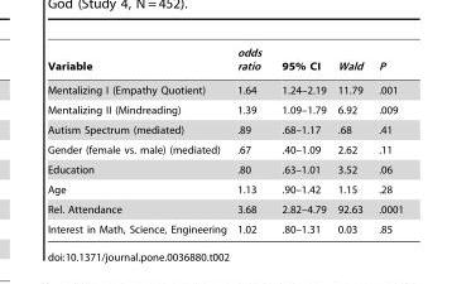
<table><thead><tr><td>Variable</td><td>odds ratio</td><td>95% CI</td><td>Wald</td><td>P</td></tr></thead><tbody><tr><td>Mentalizing I (Empathy Quotient)</td><td>1.64</td><td>1.24–2.19</td><td>11.79</td><td>.001</td></tr><tr><td>Mentalizing II (Mindreading)</td><td>1.39</td><td>1.09–1.79</td><td>6.92</td><td>.009</td></tr><tr><td>Autism Spectrum (mediated)</td><td>.89</td><td>.68–1.17</td><td>.68</td><td>.41</td></tr><tr><td>Gender (female vs. male) (mediated)</td><td>.67</td><td>.40–1.09</td><td>2.62</td><td>.11</td></tr><tr><td>Education</td><td>.80</td><td>.63–1.01</td><td>3.52</td><td>.06</td></tr><tr><td>Age</td><td>1.13</td><td>.90–1.42</td><td>1.15</td><td>.28</td></tr><tr><td>Rel. Attendance</td><td>3.68</td><td>2.82–4.79</td><td>92.63</td><td>.0001</td></tr><tr><td>Interest in Math, Science, Engineering</td><td>1.02</td><td>.80–1.31</td><td>0.03</td><td>.85</td></tr></tbody></table>